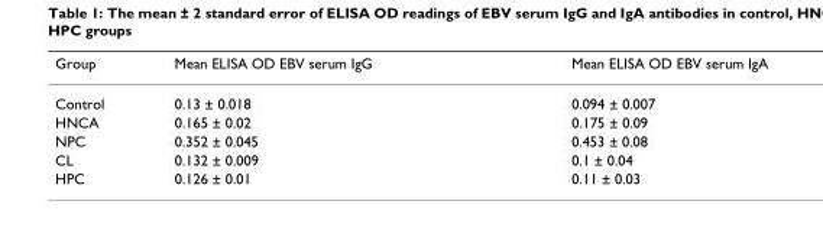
<table><thead><tr><td>Group</td><td>Mean ELISA OD EBV serum IgG</td><td>Mean ELISA OD EBV serum IgA</td></tr></thead><tbody><tr><td>Control</td><td>0.13 ± 0.018</td><td>0.094 ± 0.007</td></tr><tr><td>HNCA</td><td>0.165 ± 0.02</td><td>0.175 ± 0.09</td></tr><tr><td>NPC</td><td>0.352 ± 0.045</td><td>0.453 ± 0.08</td></tr><tr><td>CL</td><td>0.132 ± 0.009</td><td>0.1 ± 0.04</td></tr><tr><td>HPC</td><td>0.126 ± 0.01</td><td>0.11 ± 0.03</td></tr></tbody></table>